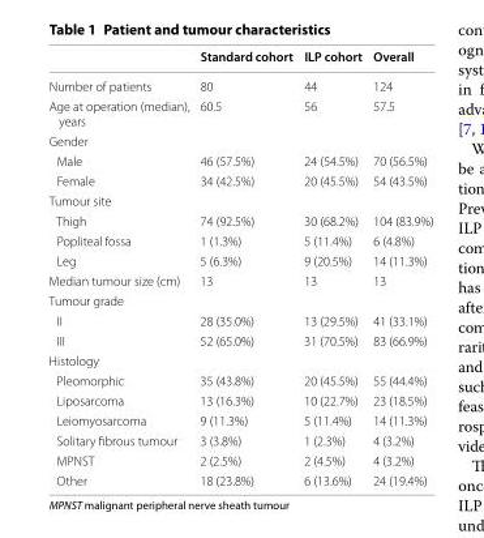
<table><thead><tr><td></td><td>Standard cohort</td><td>ILP cohort</td><td>Overall</td></tr></thead><tbody><tr><td>Number of patients</td><td>80</td><td>44</td><td>124</td></tr><tr><td>Age at operation (median), years</td><td>60.5</td><td>56</td><td>57.5</td></tr><tr><td colspan="4">Gender</td></tr><tr><td>Male</td><td>46 (57.5%)</td><td>24 (54.5%)</td><td>70 (56.5%)</td></tr><tr><td>Female</td><td>34 (42.5%)</td><td>20 (45.5%)</td><td>54 (43.5%)</td></tr><tr><td colspan="4">Tumour site</td></tr><tr><td>Thigh</td><td>74 (92.5%)</td><td>30 (68.2%)</td><td>104 (83.9%)</td></tr><tr><td>Popliteal fossa</td><td>1 (1.3%)</td><td>5 (11.4%)</td><td>6 (4.8%)</td></tr><tr><td>Leg</td><td>5 (6.3%)</td><td>9 (20.5%)</td><td>14 (11.3%)</td></tr><tr><td>Median tumour size (cm)</td><td>13</td><td>13</td><td>13</td></tr><tr><td colspan="4">Tumour grade</td></tr><tr><td>II</td><td>28 (35.0%)</td><td>13 (29.5%)</td><td>41 (33.1%)</td></tr><tr><td>III</td><td>52 (65.0%)</td><td>31 (70.5%)</td><td>83 (66.9%)</td></tr><tr><td colspan="4">Histology</td></tr><tr><td>Pleomorphic</td><td>35 (43.8%)</td><td>20 (45.5%)</td><td>55 (44.4%)</td></tr><tr><td>Liposarcoma</td><td>13 (16.3%)</td><td>10 (22.7%)</td><td>23 (18.5%)</td></tr><tr><td>Leiomyosarcoma</td><td>9 (11.3%)</td><td>5 (11.4%)</td><td>14 (11.3%)</td></tr><tr><td>Solitary fibrous tumour</td><td>3 (3.8%)</td><td>1 (2.3%)</td><td>4 (3.2%)</td></tr><tr><td>MPNST</td><td>2 (2.5%)</td><td>2 (4.5%)</td><td>4 (3.2%)</td></tr><tr><td>Other</td><td>18 (23.8%)</td><td>6 (13.6%)</td><td>24 (19.4%)</td></tr></tbody></table>